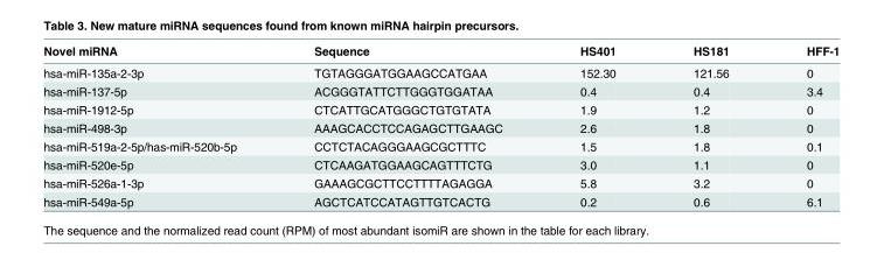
<table><thead><tr><td>Novel miRNA</td><td>Sequence</td><td>HS401</td><td>HS181</td><td>HFF-1</td></tr></thead><tbody><tr><td>hsa-miR-135a-2-3p</td><td>TGTAGGGATGGAAGCCATGAA</td><td>152.30</td><td>121.56</td><td>0</td></tr><tr><td>hsa-miR-137-5p</td><td>ACGGGTATTCTTGGGTGGATAA</td><td>0.4</td><td>0.4</td><td>3.4</td></tr><tr><td>hsa-miR-1912-5p</td><td>CTCATTGCATGGGCTGTGTATA</td><td>1.9</td><td>1.2</td><td>0</td></tr><tr><td>hsa-miR-498-3p</td><td>AAAGCACCTCCAGAGCTTGAAGC</td><td>2.6</td><td>1.8</td><td>0</td></tr><tr><td>hsa-miR-519a-2-5p/has-miR-520b-5p</td><td>CCTCTACAGGGAAGCGCTTTC</td><td>1.5</td><td>1.8</td><td>0.1</td></tr><tr><td>hsa-miR-520e-5p</td><td>CTCAAGATGGAAGCAGTTTCTG</td><td>3.0</td><td>1.1</td><td>0</td></tr><tr><td>hsa-miR-526a-1-3p</td><td>GAAAGCGCTTCCTTTTAGAGGA</td><td>5.8</td><td>3.2</td><td>0</td></tr><tr><td>hsa-miR-549a-5p</td><td>AGCTCATCCATAGTTGTCACTG</td><td>0.2</td><td>0.6</td><td>6.1</td></tr></tbody></table>